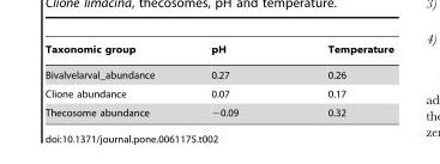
<table><thead><tr><td>Taxonomic group</td><td>pH</td><td>Temperature</td></tr></thead><tbody><tr><td>Bivalvelarval_abundance</td><td>0.27</td><td>0.26</td></tr><tr><td>Clione abundance</td><td>0.07</td><td>0.17</td></tr><tr><td>Thecosome abundance</td><td>−0.09</td><td>0.32</td></tr></tbody></table>